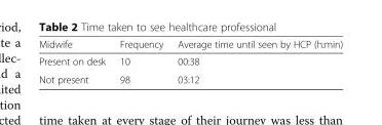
<table><thead><tr><td>Midwife</td><td>Frequency</td><td>Average time until seen by HCP (h:min)</td></tr></thead><tbody><tr><td>Present on desk</td><td>10</td><td>00:38</td></tr><tr><td>Not present</td><td>98</td><td>03:12</td></tr></tbody></table>